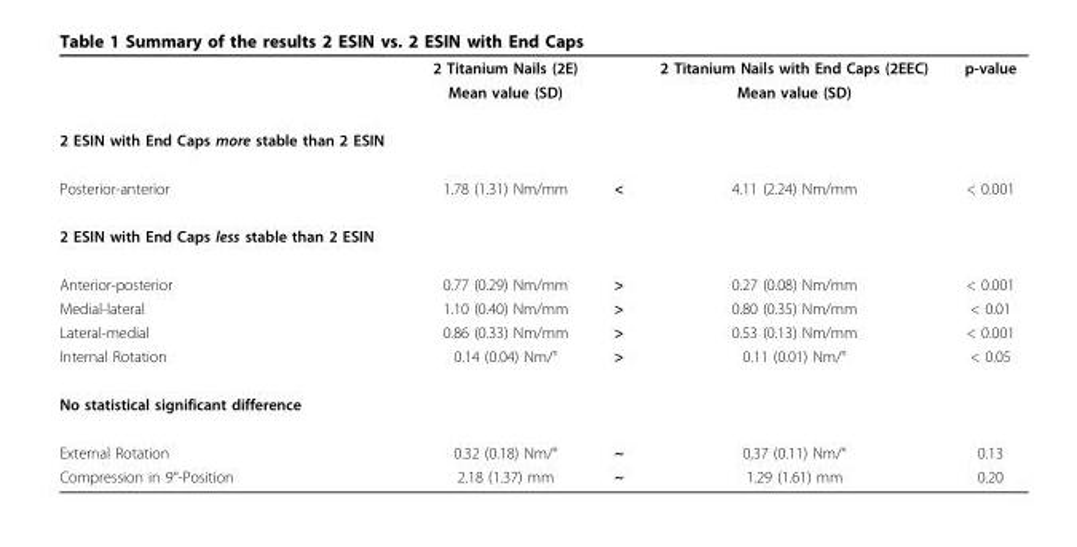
<table><thead><tr><td></td><td>2 Titanium Nails (2E)</td><td></td><td>2 Titanium Nails with End Caps (2EEC)</td><td>p-value</td></tr></thead><tbody><tr><td></td><td>Mean value (SD)</td><td></td><td>Mean value (SD)</td><td></td></tr><tr><td colspan="5">2 ESIN with End Caps more stable than 2 ESIN</td></tr><tr><td>Posterior-anterior</td><td>1.78 (1.31) Nm/mm</td><td>&lt;</td><td>4.11 (2.24) Nm/mm</td><td>&lt; 0.001</td></tr><tr><td colspan="5">2 ESIN with End Caps less stable than 2 ESIN</td></tr><tr><td>Anterior-posterior</td><td>0.77 (0.29) Nm/mm</td><td>&gt;</td><td>0.27 (0.08) Nm/mm</td><td>&lt; 0.001</td></tr><tr><td>Medial-lateral</td><td>1.10 (0.40) Nm/mm</td><td>&gt;</td><td>0.80 (0.35) Nm/mm</td><td>&lt; 0.01</td></tr><tr><td>Lateral-medial</td><td>0.86 (0.33) Nm/mm</td><td>&gt;</td><td>0.53 (0.13) Nm/mm</td><td>&lt; 0.001</td></tr><tr><td>Internal Rotation</td><td>0.14 (0.04) Nm/°</td><td>&gt;</td><td>0.11 (0.01) Nm/°</td><td>&lt; 0.05</td></tr><tr><td colspan="5">No statistical significant difference</td></tr><tr><td>External Rotation</td><td>0.32 (0.18) Nm/°</td><td>~</td><td>0,37 (0.11) Nm/°</td><td>0.13</td></tr><tr><td>Compression in 9°-Position</td><td>2.18 (1.37) mm</td><td>~</td><td>1.29 (1.61) mm</td><td>0.20</td></tr></tbody></table>